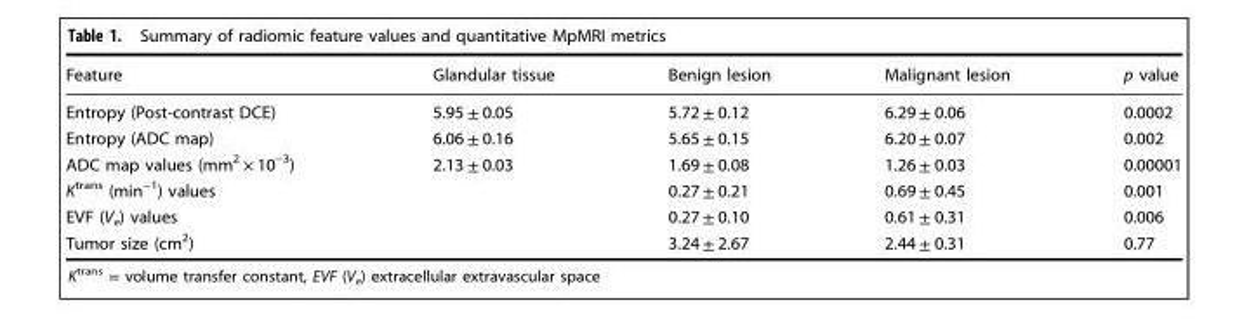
<table><thead><tr><td>Feature</td><td>Glandular tissue</td><td>Benign lesion</td><td>Malignant lesion</td><td>p value</td></tr></thead><tbody><tr><td>Entropy (Post-contrast DCE)</td><td>5.95 ± 0.05</td><td>5.72 ± 0.12</td><td>6.29 ± 0.06</td><td>0.0002</td></tr><tr><td>Entropy (ADC map)</td><td>6.06 ± 0.16</td><td>5.65 ± 0.15</td><td>6.20 ± 0.07</td><td>0.002</td></tr><tr><td>ADC map values (mm<sup>2</sup> × 10<sup>−3</sup>)</td><td>2.13 ± 0.03</td><td>1.69 ± 0.08</td><td>1.26 ± 0.03</td><td>0.00001</td></tr><tr><td>K<sup>trans</sup> (min<sup>−1</sup>) values</td><td></td><td>0.27 ± 0.21</td><td>0.69 ± 0.45</td><td>0.001</td></tr><tr><td>EVF (V<sub>e</sub>) values</td><td></td><td>0.27 ± 0.10</td><td>0.61 ± 0.31</td><td>0.006</td></tr><tr><td>Tumor size (cm<sup>2</sup>)</td><td></td><td>3.24 ± 2.67</td><td>2.44 ± 0.31</td><td>0.77</td></tr></tbody></table>